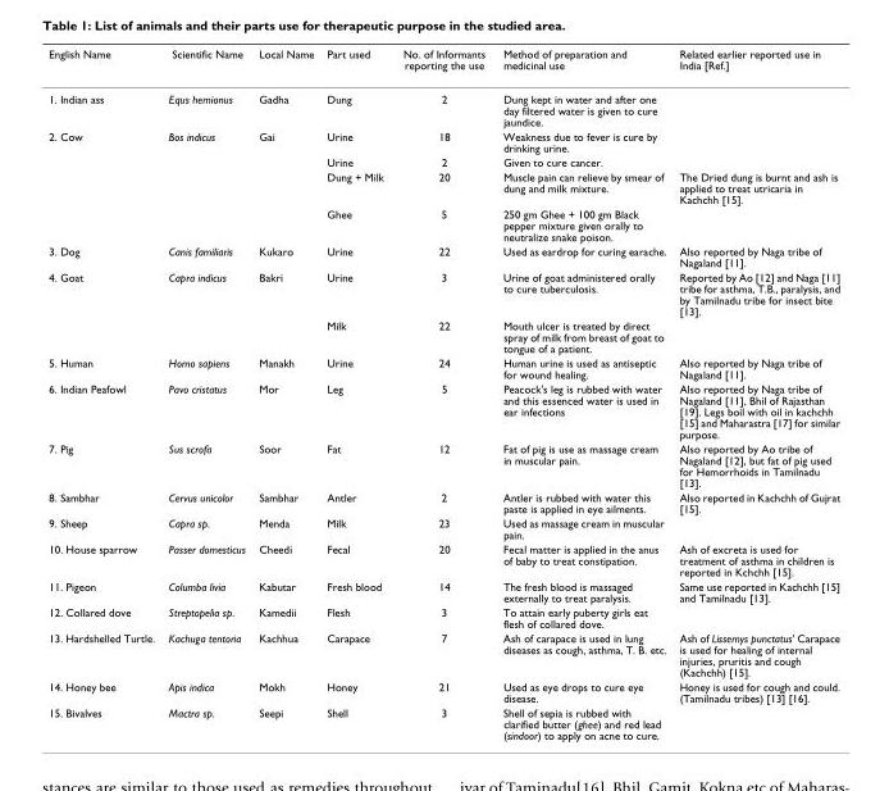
<table><thead><tr><td>English Name</td><td>Scientific Name</td><td>Local Name</td><td>Part used</td><td>No. of Informants reporting the use</td><td>Method of preparation and medicinal use</td><td>Related earlier reported use in India [Ref.]</td></tr></thead><tbody><tr><td>1. Indian ass</td><td>Equs hemionus</td><td>Gadha</td><td>Dung</td><td>2</td><td>Dung kept in water and after one day filtered water is given to cure jaundice.</td><td></td></tr><tr><td rowspan="4">2. Cow</td><td>Bos indicus</td><td>Gai</td><td>Urine</td><td>18</td><td>Weakness due to fever is cure by drinking urine.</td><td></td></tr><tr><td></td><td></td><td>Urine</td><td>2</td><td>Given to cure cancer.</td><td></td></tr><tr><td></td><td></td><td>Dung + Milk</td><td>20</td><td>Muscle pain can relieve by smear of dung and milk mixture.</td><td>The Dried dung is burnt and ash is applied to treat utricaria in Kachchh [15].</td></tr><tr><td></td><td></td><td>Ghee</td><td>5</td><td>250 gm Ghee + 100 gm Black pepper mixture given orally to neutralize snake poison.</td><td></td></tr><tr><td>3. Dog</td><td>Canis familiaris</td><td>Kukaro</td><td>Urine</td><td>22</td><td>Used as eardrop for curing earache.</td><td>Also reported by Naga tribe of Nagaland [11].</td></tr><tr><td rowspan="2">4. Goat</td><td>Capra indicus</td><td>Bakri</td><td>Urine</td><td>3</td><td>Urine of goat administered orally to cure tuberculosis.</td><td>Reported by Ao [12] and Naga [11] tribe for asthma, T.B., paralysis, and by Tamilnadu tribe for insect bite [13].</td></tr><tr><td></td><td></td><td>Milk</td><td>22</td><td>Mouth ulcer is treated by direct spray of milk from breast of goat to tongue of a patient.</td><td></td></tr><tr><td>5. Human</td><td>Homo sapiens</td><td>Manakh</td><td>Urine</td><td>24</td><td>Human urine is used as antiseptic for wound healing.</td><td>Also reported by Naga tribe of Nagaland [11].</td></tr><tr><td>6. Indian Peafowl</td><td>Pavo cristatus</td><td>Mor</td><td>Leg</td><td>5</td><td>Peacock&#x27;s leg is rubbed with water and this essenced water is used in ear infections</td><td>Also reported by Naga tribe of Nagaland [11], Bhil of Rajasthan [19]. Legs boil with oil in kachchh [15] and Maharastra [17] for similar purpose.</td></tr><tr><td>7. Pig</td><td>Sus scrofa</td><td>Soor</td><td>Fat</td><td>12</td><td>Fat of pig is use as massage cream in muscular pain.</td><td>Also reported by Ao tribe of Nagaland [12], but fat of pig used for Hemorrhoids in Tamilnadu [13].</td></tr><tr><td>8. Sambhar</td><td>Cervus unicolor</td><td>Sambhar</td><td>Antler</td><td>2</td><td>Antler is rubbed with water this paste is applied in eye ailments.</td><td>Also reported in Kachchh of Gujrat [15].</td></tr><tr><td>9. Sheep</td><td>Capra sp.</td><td>Menda</td><td>Milk</td><td>23</td><td>Used as massage cream in muscular pain.</td><td></td></tr><tr><td>10. House sparrow</td><td>Passer domesticus</td><td>Cheedi</td><td>Fecal</td><td>20</td><td>Fecal matter is applied in the anus of baby to treat constipation.</td><td>Ash of excreta is used for treatment of asthma in children is reported in Kchchh [15].</td></tr><tr><td>11. Pigeon</td><td>Columba livia</td><td>Kabutar</td><td>Fresh blood</td><td>14</td><td>The fresh blood is massaged externally to treat paralysis.</td><td>Same use reported in Kachchh [15] and Tamilnadu [13].</td></tr><tr><td>12. Collared dove</td><td>Streptopelia sp.</td><td>Kamedii</td><td>Flesh</td><td>3</td><td>To attain early puberty girls eat flesh of collared dove.</td><td></td></tr><tr><td>13. Hardshelled Turtle.</td><td>Kachuga tentoria</td><td>Kachhua</td><td>Carapace</td><td>7</td><td>Ash of carapace is used in lung diseases as cough, asthma, T. B. etc.</td><td>Ash of Lissemys punctatus&#x27; Carapace is used for healing of internal injuries, pruritis and cough (Kachchh) [15].</td></tr><tr><td>14. Honey bee</td><td>Apis indica</td><td>Mokh</td><td>Honey</td><td>21</td><td>Used as eye drops to cure eye disease.</td><td>Honey is used for cough and could. (Tamilnadu tribes) [13] [16].</td></tr><tr><td>15. Bivalves</td><td>Mactra sp.</td><td>Seepi</td><td>Shell</td><td>3</td><td>Shell of sepia is rubbed with clarified butter (ghee) and red lead (sindoor) to apply on acne to cure.</td><td></td></tr></tbody></table>